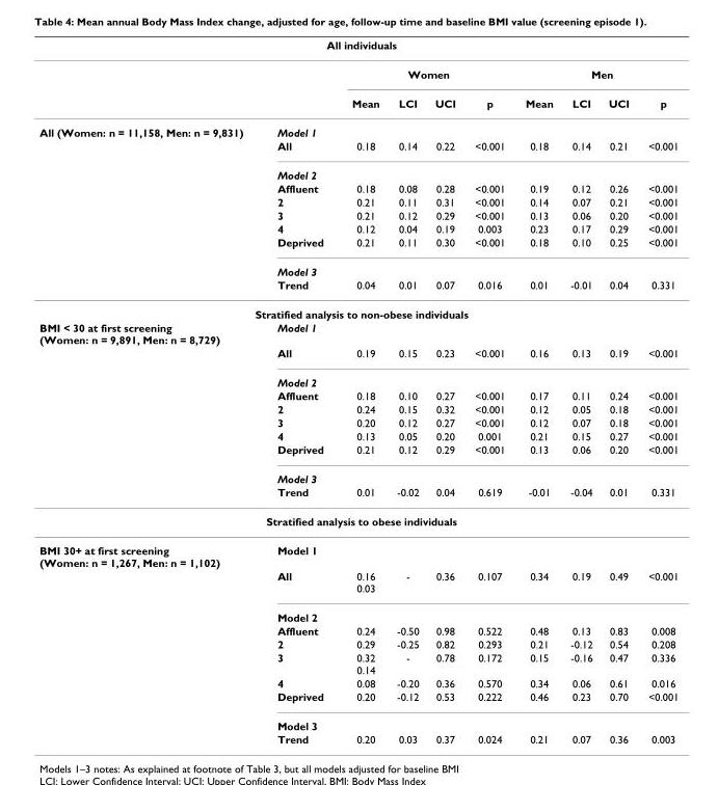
<table><thead><tr><td colspan="10">All individuals</td></tr><tr><td rowspan="2"></td><td rowspan="2"></td><td colspan="4">Women</td><td colspan="4">Men</td></tr><tr><td>Mean</td><td>LCI</td><td>UCI</td><td>p</td><td>Mean</td><td>LCI</td><td>UCI</td><td>p</td></tr></thead><tbody><tr><td rowspan="10">All (Women: n = 11,158, Men: n = 9,831)</td><td>Model 1</td><td></td><td></td><td></td><td></td><td></td><td></td><td></td><td></td></tr><tr><td>All</td><td>0.18</td><td>0.14</td><td>0.22</td><td>&lt;0.001</td><td>0.18</td><td>0.14</td><td>0.21</td><td>&lt;0.001</td></tr><tr><td>Model 2</td><td></td><td></td><td></td><td></td><td></td><td></td><td></td><td></td></tr><tr><td>Affluent</td><td>0.18</td><td>0.08</td><td>0.28</td><td>&lt;0.001</td><td>0.19</td><td>0.12</td><td>0.26</td><td>&lt;0.001</td></tr><tr><td>2</td><td>0.21</td><td>0.11</td><td>0.31</td><td>&lt;0.001</td><td>0.14</td><td>0.07</td><td>0.21</td><td>&lt;0.001</td></tr><tr><td>3</td><td>0.21</td><td>0.12</td><td>0.29</td><td>&lt;0.001</td><td>0.13</td><td>0.06</td><td>0.20</td><td>&lt;0.001</td></tr><tr><td>4</td><td>0.12</td><td>0.04</td><td>0.19</td><td>0.003</td><td>0.23</td><td>0.17</td><td>0.29</td><td>&lt;0.001</td></tr><tr><td>Deprived</td><td>0.21</td><td>0.11</td><td>0.30</td><td>&lt;0.001</td><td>0.18</td><td>0.10</td><td>0.25</td><td>&lt;0.001</td></tr><tr><td>Model 3</td><td></td><td></td><td></td><td></td><td></td><td></td><td></td><td></td></tr><tr><td>Trend</td><td>0.04</td><td>0.01</td><td>0.07</td><td>0.016</td><td>0.01</td><td>-0.01</td><td>0.04</td><td>0.331</td></tr><tr><td colspan="10">Stratified analysis to non-obese individuals</td></tr><tr><td rowspan="10">BMI &lt; 30 at first screening (Women: n = 9,891, Men: n = 8,729)</td><td>Model 1</td><td></td><td></td><td></td><td></td><td></td><td></td><td></td><td></td></tr><tr><td>All</td><td>0.19</td><td>0.15</td><td>0.23</td><td>&lt;0.001</td><td>0.16</td><td>0.13</td><td>0.19</td><td>&lt;0.001</td></tr><tr><td>Model 2</td><td></td><td></td><td></td><td></td><td></td><td></td><td></td><td></td></tr><tr><td>Affluent</td><td>0.18</td><td>0.10</td><td>0.27</td><td>&lt;0.001</td><td>0.17</td><td>0.11</td><td>0.24</td><td>&lt;0.001</td></tr><tr><td>2</td><td>0.24</td><td>0.15</td><td>0.32</td><td>&lt;0.001</td><td>0.12</td><td>0.05</td><td>0.18</td><td>&lt;0.001</td></tr><tr><td>3</td><td>0.20</td><td>0.12</td><td>0.27</td><td>&lt;0.001</td><td>0.12</td><td>0.07</td><td>0.18</td><td>&lt;0.001</td></tr><tr><td>4</td><td>0.13</td><td>0.05</td><td>0.20</td><td>0.001</td><td>0.21</td><td>0.15</td><td>0.27</td><td>&lt;0.001</td></tr><tr><td>Deprived</td><td>0.21</td><td>0.12</td><td>0.29</td><td>&lt;0.001</td><td>0.13</td><td>0.06</td><td>0.20</td><td>&lt;0.001</td></tr><tr><td>Model 3</td><td></td><td></td><td></td><td></td><td></td><td></td><td></td><td></td></tr><tr><td>Trend</td><td>0.01</td><td>-0.02</td><td>0.04</td><td>0.619</td><td>-0.01</td><td>-0.04</td><td>0.01</td><td>0.331</td></tr><tr><td colspan="10">Stratified analysis to obese individuals</td></tr><tr><td rowspan="10">BMI 30+ at first screening (Women: n = 1,267, Men: n = 1,102)</td><td>Model 1</td><td></td><td></td><td></td><td></td><td></td><td></td><td></td><td></td></tr><tr><td>All</td><td>0.16 0.03</td><td>-</td><td>0.36</td><td>0.107</td><td>0.34</td><td>0.19</td><td>0.49</td><td>&lt;0.001</td></tr><tr><td>Model 2</td><td></td><td></td><td></td><td></td><td></td><td></td><td></td><td></td></tr><tr><td>Affluent</td><td>0.24</td><td>-0.50</td><td>0.98</td><td>0.522</td><td>0.48</td><td>0.13</td><td>0.83</td><td>0.008</td></tr><tr><td>2</td><td>0.29</td><td>-0.25</td><td>0.82</td><td>0.293</td><td>0.21</td><td>-0.12</td><td>0.54</td><td>0.208</td></tr><tr><td>3</td><td>0.32 0.14</td><td>-</td><td>0.78</td><td>0.172</td><td>0.15</td><td>-0.16</td><td>0.47</td><td>0.336</td></tr><tr><td>4</td><td>0.08</td><td>-0.20</td><td>0.36</td><td>0.570</td><td>0.34</td><td>0.06</td><td>0.61</td><td>0.016</td></tr><tr><td>Deprived</td><td>0.20</td><td>-0.12</td><td>0.53</td><td>0.222</td><td>0.46</td><td>0.23</td><td>0.70</td><td>&lt;0.001</td></tr><tr><td>Model 3</td><td></td><td></td><td></td><td></td><td></td><td></td><td></td><td></td></tr><tr><td>Trend</td><td>0.20</td><td>0.03</td><td>0.37</td><td>0.024</td><td>0.21</td><td>0.07</td><td>0.36</td><td>0.003</td></tr></tbody></table>